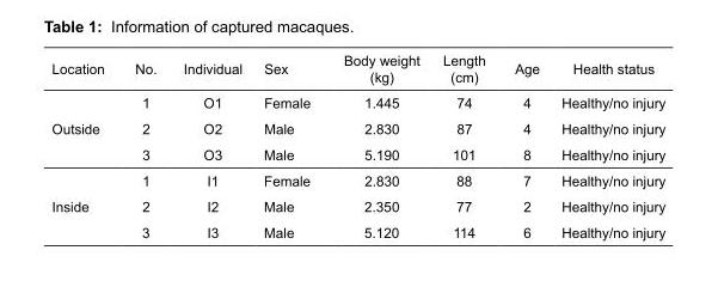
<table><thead><tr><td>Location</td><td>No.</td><td>Individual</td><td>Sex</td><td>Body weight (kg)</td><td>Length (cm)</td><td>Age</td><td>Health status</td></tr></thead><tbody><tr><td rowspan="3">Outside</td><td>1</td><td>O1</td><td>Female</td><td>1.445</td><td>74</td><td>4</td><td>Healthy/no injury</td></tr><tr><td>2</td><td>O2</td><td>Male</td><td>2.830</td><td>87</td><td>4</td><td>Healthy/no injury</td></tr><tr><td>3</td><td>O3</td><td>Male</td><td>5.190</td><td>101</td><td>8</td><td>Healthy/no injury</td></tr><tr><td rowspan="3">Inside</td><td>1</td><td>I1</td><td>Female</td><td>2.830</td><td>88</td><td>7</td><td>Healthy/no injury</td></tr><tr><td>2</td><td>I2</td><td>Male</td><td>2.350</td><td>77</td><td>2</td><td>Healthy/no injury</td></tr><tr><td>3</td><td>I3</td><td>Male</td><td>5.120</td><td>114</td><td>6</td><td>Healthy/no injury</td></tr></tbody></table>